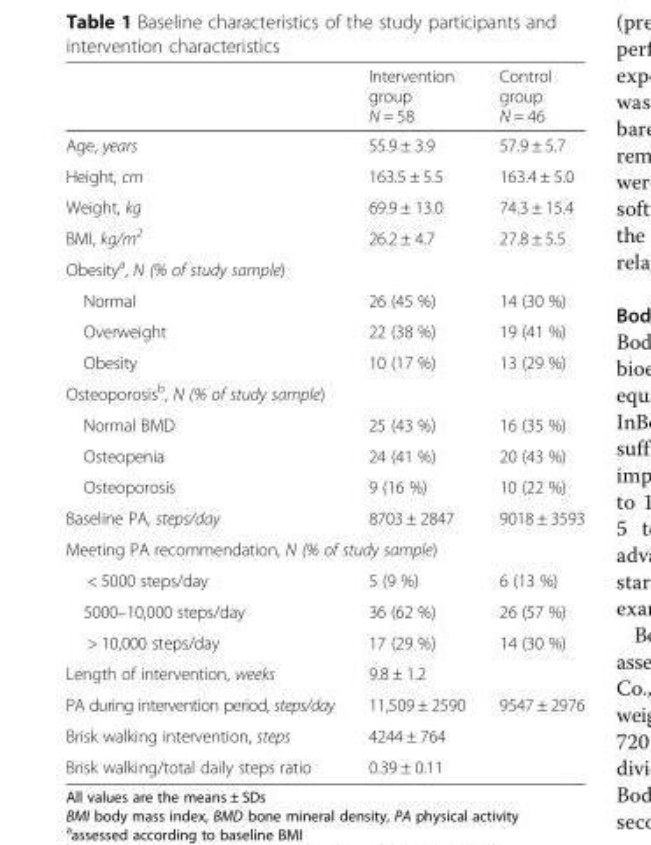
<table><thead><tr><td></td><td>Intervention group N = 58</td><td>Control group N = 46</td></tr></thead><tbody><tr><td>Age, years</td><td>55.9 ± 3.9</td><td>57.9 ± 5.7</td></tr><tr><td>Height, cm</td><td>163.5 ± 5.5</td><td>163.4 ± 5.0</td></tr><tr><td>Weight, kg</td><td>69.9 ± 13.0</td><td>74.3 ± 15.4</td></tr><tr><td>BMI, kg/m<sup>2</sup></td><td>26.2 ± 4.7</td><td>27.8 ± 5.5</td></tr><tr><td colspan="3">Obesity<sup>a</sup>, N (% of study sample)</td></tr><tr><td>Normal</td><td>26 (45 %)</td><td>14 (30 %)</td></tr><tr><td>Overweight</td><td>22 (38 %)</td><td>19 (41 %)</td></tr><tr><td>Obesity</td><td>10 (17 %)</td><td>13 (29 %)</td></tr><tr><td colspan="3">Osteoporosis<sup>b</sup>, N (% of study sample)</td></tr><tr><td>Normal BMD</td><td>25 (43 %)</td><td>16 (35 %)</td></tr><tr><td>Osteopenia</td><td>24 (41 %)</td><td>20 (43 %)</td></tr><tr><td>Osteoporosis</td><td>9 (16 %)</td><td>10 (22 %)</td></tr><tr><td>Baseline PA, steps/day</td><td>8703 ± 2847</td><td>9018 ± 3593</td></tr><tr><td colspan="3">Meeting PA recommendation, N (% of study sample)</td></tr><tr><td>&lt; 5000 steps/day</td><td>5 (9 %)</td><td>6 (13 %)</td></tr><tr><td>5000–10,000 steps/day</td><td>36 (62 %)</td><td>26 (57 %)</td></tr><tr><td>&gt; 10,000 steps/day</td><td>17 (29 %)</td><td>14 (30 %)</td></tr><tr><td>Length of intervention, weeks</td><td>9.8 ± 1.2</td><td></td></tr><tr><td>PA during intervention period, steps/day</td><td>11,509 ± 2590</td><td>9547 ± 2976</td></tr><tr><td>Brisk walking intervention, steps</td><td>4244 ± 764</td><td></td></tr><tr><td>Brisk walking/total daily steps ratio</td><td>0.39 ± 0.11</td><td></td></tr></tbody></table>